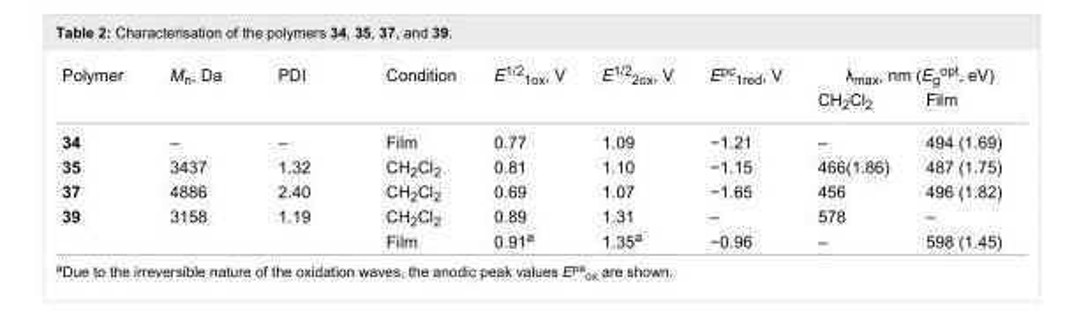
<table><tbody><tr><td rowspan="2">Polymer</td><td rowspan="2">M<sub>n</sub>, Da</td><td rowspan="2">PDI</td><td rowspan="2">Condition</td><td rowspan="2">E<sup>1/2</sup><sub>1ox</sub>, V</td><td rowspan="2">E<sup>1/2</sup><sub>2ox</sub>, V</td><td rowspan="2">E<sup>pc</sup><sub>1red</sub>, V</td><td colspan="2">λ<sub>max</sub>, nm (E<sub>g</sub><sup>opt</sup>, eV)</td></tr><tr><td>CH<sub>2</sub>Cl<sub>2</sub></td><td>Film</td></tr><tr><td>34</td><td>–</td><td>–</td><td>Film</td><td>0.77</td><td>1.09</td><td>−1.21</td><td>–</td><td>494 (1.69)</td></tr><tr><td>35</td><td>3437</td><td>1.32</td><td>CH<sub>2</sub>Cl<sub>2</sub></td><td>0.81</td><td>1.10</td><td>−1.15</td><td>466(1.86)</td><td>487 (1.75)</td></tr><tr><td>37</td><td>4886</td><td>2.40</td><td>CH<sub>2</sub>Cl<sub>2</sub></td><td>0.69</td><td>1.07</td><td>−1.65</td><td>456</td><td>496 (1.82)</td></tr><tr><td rowspan="2">39</td><td rowspan="2">3158</td><td rowspan="2">1.19</td><td>CH<sub>2</sub>Cl<sub>2</sub></td><td>0.89</td><td>1.31</td><td>–</td><td>578</td><td>–</td></tr><tr><td>Film</td><td>0.91<sup>a</sup></td><td>1.35<sup>a</sup></td><td>−0.96</td><td>–</td><td>598 (1.45)</td></tr></tbody></table>